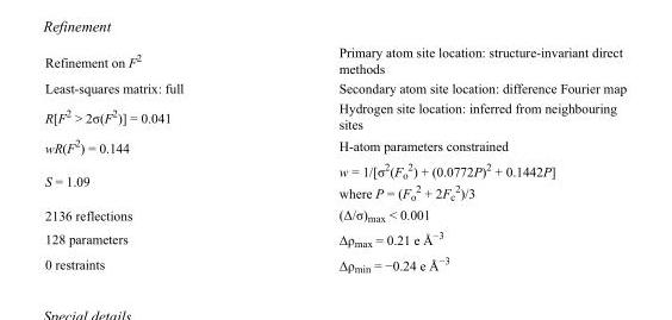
<table><tbody><tr><td>Refinement on F<sup>2</sup></td><td>Primary atom site location: structure-invariant direct methods</td></tr><tr><td>Least-squares matrix: full</td><td>Secondary atom site location: difference Fourier map</td></tr><tr><td>R[F<sup>2</sup> &gt; 2σ(F<sup>2</sup>)] = 0.041</td><td>Hydrogen site location: inferred from neighbouring sites</td></tr><tr><td>wR(F<sup>2</sup>) = 0.144</td><td>H-atom parameters constrained</td></tr><tr><td>S = 1.09</td><td>w = 1/[σ<sup>2</sup>(F<sub>o</sub> <sup>2</sup>) + (0.0772P)<sup>2</sup> + 0.1442P] where P = (F<sub>o</sub> <sup>2</sup> + 2F<sub>c</sub> <sup>2</sup>)/3</td></tr><tr><td>2136 reflections</td><td>(Δ/σ)<sub>max</sub> &lt; 0.001</td></tr><tr><td>128 parameters</td><td>Δρ<sub>max</sub> = 0.21 e Å<sup>−3</sup></td></tr><tr><td>0 restraints</td><td>Δρ<sub>min</sub> = −0.24 e Å<sup>−3</sup></td></tr></tbody></table>